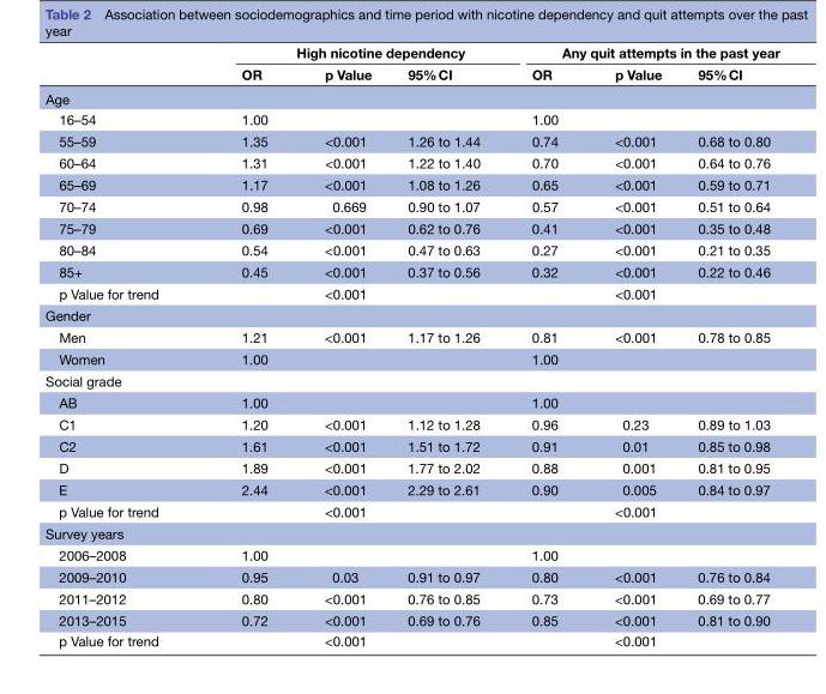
<table><thead><tr><td rowspan="2"></td><td colspan="3">High nicotine dependency</td><td colspan="3">Any quit attempts in the past year</td></tr><tr><td>OR</td><td>p Value</td><td>95% CI</td><td>OR</td><td>p Value</td><td>95% CI</td></tr></thead><tbody><tr><td colspan="7">Age</td></tr><tr><td>16–54</td><td>1.00</td><td></td><td></td><td>1.00</td><td></td><td></td></tr><tr><td>55–59</td><td>1.35</td><td>&lt;0.001</td><td>1.26 to 1.44</td><td>0.74</td><td>&lt;0.001</td><td>0.68 to 0.80</td></tr><tr><td>60–64</td><td>1.31</td><td>&lt;0.001</td><td>1.22 to 1.40</td><td>0.70</td><td>&lt;0.001</td><td>0.64 to 0.76</td></tr><tr><td>65–69</td><td>1.17</td><td>&lt;0.001</td><td>1.08 to 1.26</td><td>0.65</td><td>&lt;0.001</td><td>0.59 to 0.71</td></tr><tr><td>70–74</td><td>0.98</td><td>0.669</td><td>0.90 to 1.07</td><td>0.57</td><td>&lt;0.001</td><td>0.51 to 0.64</td></tr><tr><td>75–79</td><td>0.69</td><td>&lt;0.001</td><td>0.62 to 0.76</td><td>0.41</td><td>&lt;0.001</td><td>0.35 to 0.48</td></tr><tr><td>80–84</td><td>0.54</td><td>&lt;0.001</td><td>0.47 to 0.63</td><td>0.27</td><td>&lt;0.001</td><td>0.21 to 0.35</td></tr><tr><td>85+</td><td>0.45</td><td>&lt;0.001</td><td>0.37 to 0.56</td><td>0.32</td><td>&lt;0.001</td><td>0.22 to 0.46</td></tr><tr><td colspan="2">p Value for trend</td><td>&lt;0.001</td><td></td><td></td><td>&lt;0.001</td><td></td></tr><tr><td colspan="7">Gender</td></tr><tr><td>Men</td><td>1.21</td><td>&lt;0.001</td><td>1.17 to 1.26</td><td>0.81</td><td>&lt;0.001</td><td>0.78 to 0.85</td></tr><tr><td>Women</td><td>1.00</td><td></td><td></td><td>1.00</td><td></td><td></td></tr><tr><td colspan="7">Social grade</td></tr><tr><td>AB</td><td>1.00</td><td></td><td></td><td>1.00</td><td></td><td></td></tr><tr><td>C1</td><td>1.20</td><td>&lt;0.001</td><td>1.12 to 1.28</td><td>0.96</td><td>0.23</td><td>0.89 to 1.03</td></tr><tr><td>C2</td><td>1.61</td><td>&lt;0.001</td><td>1.51 to 1.72</td><td>0.91</td><td>0.01</td><td>0.85 to 0.98</td></tr><tr><td>D</td><td>1.89</td><td>&lt;0.001</td><td>1.77 to 2.02</td><td>0.88</td><td>0.001</td><td>0.81 to 0.95</td></tr><tr><td>E</td><td>2.44</td><td>&lt;0.001</td><td>2.29 to 2.61</td><td>0.90</td><td>0.005</td><td>0.84 to 0.97</td></tr><tr><td colspan="2">p Value for trend</td><td>&lt;0.001</td><td></td><td></td><td>&lt;0.001</td><td></td></tr><tr><td colspan="7">Survey years</td></tr><tr><td>2006–2008</td><td>1.00</td><td></td><td></td><td>1.00</td><td></td><td></td></tr><tr><td>2009–2010</td><td>0.95</td><td>0.03</td><td>0.91 to 0.97</td><td>0.80</td><td>&lt;0.001</td><td>0.76 to 0.84</td></tr><tr><td>2011–2012</td><td>0.80</td><td>&lt;0.001</td><td>0.76 to 0.85</td><td>0.73</td><td>&lt;0.001</td><td>0.69 to 0.77</td></tr><tr><td>2013–2015</td><td>0.72</td><td>&lt;0.001</td><td>0.69 to 0.76</td><td>0.85</td><td>&lt;0.001</td><td>0.81 to 0.90</td></tr><tr><td colspan="2">p Value for trend</td><td>&lt;0.001</td><td></td><td></td><td>&lt;0.001</td><td></td></tr></tbody></table>